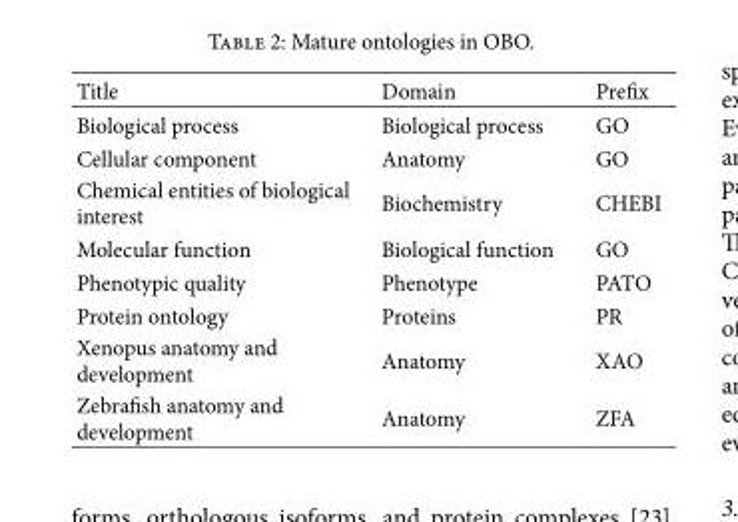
<table><thead><tr><td>Title</td><td>Domain</td><td>Prefix</td></tr></thead><tbody><tr><td>Biological process</td><td>Biological process</td><td>GO</td></tr><tr><td>Cellular component</td><td>Anatomy</td><td>GO</td></tr><tr><td>Chemical entities of biological interest</td><td>Biochemistry</td><td>CHEBI</td></tr><tr><td>Molecular function</td><td>Biological function</td><td>GO</td></tr><tr><td>Phenotypic quality</td><td>Phenotype</td><td>PATO</td></tr><tr><td>Protein ontology</td><td>Proteins</td><td>PR</td></tr><tr><td>Xenopus anatomy and development</td><td>Anatomy</td><td>XAO</td></tr><tr><td>Zebrafish anatomy and development</td><td>Anatomy</td><td>ZFA</td></tr></tbody></table>